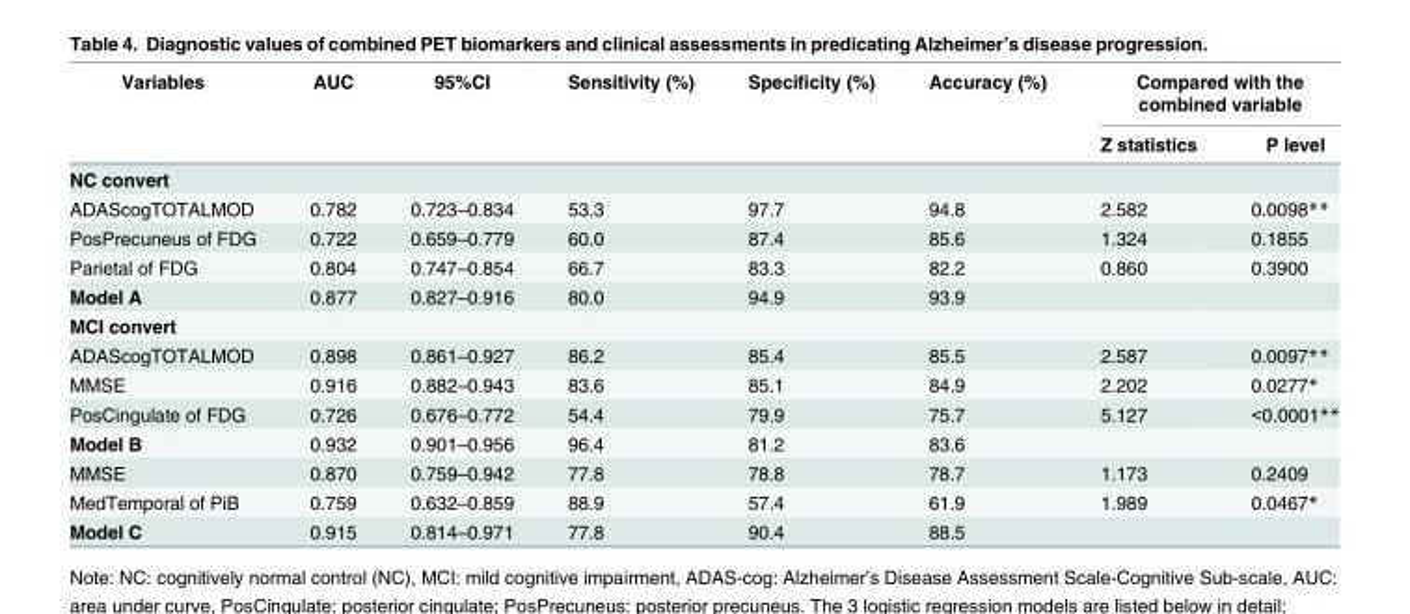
<table><thead><tr><td rowspan="2">Variables</td><td rowspan="2">AUC</td><td rowspan="2">95%CI</td><td rowspan="2">Sensitivity (%)</td><td rowspan="2">Specificity (%)</td><td rowspan="2">Accuracy (%)</td><td colspan="2">Compared with the combined variable</td></tr><tr><td>Z statistics</td><td>P level</td></tr></thead><tbody><tr><td colspan="8">NC convert</td></tr><tr><td>ADAScogTOTALMOD</td><td>0.782</td><td>0.723–0.834</td><td>53.3</td><td>97.7</td><td>94.8</td><td>2.582</td><td>0.0098**</td></tr><tr><td>PosPrecuneus of FDG</td><td>0.722</td><td>0.659–0.779</td><td>60.0</td><td>87.4</td><td>85.6</td><td>1.324</td><td>0.1855</td></tr><tr><td>Parietal of FDG</td><td>0.804</td><td>0.747–0.854</td><td>66.7</td><td>83.3</td><td>82.2</td><td>0.860</td><td>0.3900</td></tr><tr><td>Model A</td><td>0.877</td><td>0.827–0.916</td><td>80.0</td><td>94.9</td><td>93.9</td><td></td><td></td></tr><tr><td colspan="8">MCI convert</td></tr><tr><td>ADAScogTOTALMOD</td><td>0.898</td><td>0.861–0.927</td><td>86.2</td><td>85.4</td><td>85.5</td><td>2.587</td><td>0.0097**</td></tr><tr><td>MMSE</td><td>0.916</td><td>0.882–0.943</td><td>83.6</td><td>85.1</td><td>84.9</td><td>2.202</td><td>0.0277*</td></tr><tr><td>PosCingulate of FDG</td><td>0.726</td><td>0.676–0.772</td><td>54.4</td><td>79.9</td><td>75.7</td><td>5.127</td><td>&lt;0.0001**</td></tr><tr><td>Model B</td><td>0.932</td><td>0.901–0.956</td><td>96.4</td><td>81.2</td><td>83.6</td><td></td><td></td></tr><tr><td>MMSE</td><td>0.870</td><td>0.759–0.942</td><td>77.8</td><td>78.8</td><td>78.7</td><td>1.173</td><td>0.2409</td></tr><tr><td>MedTemporal of PiB</td><td>0.759</td><td>0.632–0.859</td><td>88.9</td><td>57.4</td><td>61.9</td><td>1.989</td><td>0.0467*</td></tr><tr><td>Model C</td><td>0.915</td><td>0.814–0.971</td><td>77.8</td><td>90.4</td><td>88.5</td><td></td><td></td></tr></tbody></table>